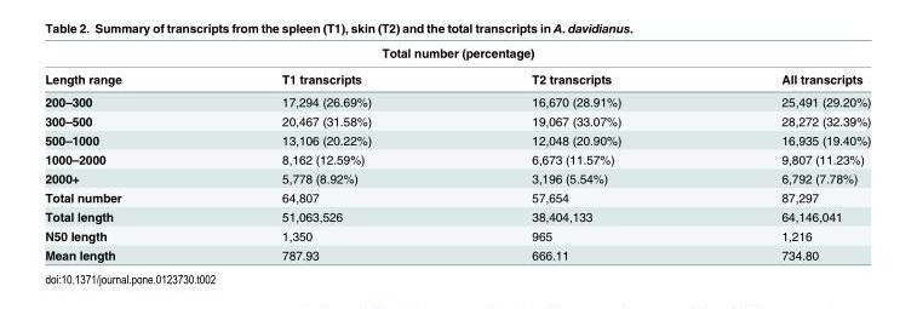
<table><thead><tr><td colspan="4">Total number (percentage)</td></tr><tr><td>Length range</td><td>T1 transcripts</td><td>T2 transcripts</td><td>All transcripts</td></tr></thead><tbody><tr><td>200–300</td><td>17,294 (26.69%)</td><td>16,670 (28.91%)</td><td>25,491 (29.20%)</td></tr><tr><td>300–500</td><td>20,467 (31.58%)</td><td>19,067 (33.07%)</td><td>28,272 (32.39%)</td></tr><tr><td>500–1000</td><td>13,106 (20.22%)</td><td>12,048 (20.90%)</td><td>16,935 (19.40%)</td></tr><tr><td>1000–2000</td><td>8,162 (12.59%)</td><td>6,673 (11.57%)</td><td>9,807 (11.23%)</td></tr><tr><td>2000+</td><td>5,778 (8.92%)</td><td>3,196 (5.54%)</td><td>6,792 (7.78%)</td></tr><tr><td>Total number</td><td>64,807</td><td>57,654</td><td>87,297</td></tr><tr><td>Total length</td><td>51,063,526</td><td>38,404,133</td><td>64,146,041</td></tr><tr><td>N50 length</td><td>1,350</td><td>965</td><td>1,216</td></tr><tr><td>Mean length</td><td>787.93</td><td>666.11</td><td>734.80</td></tr></tbody></table>